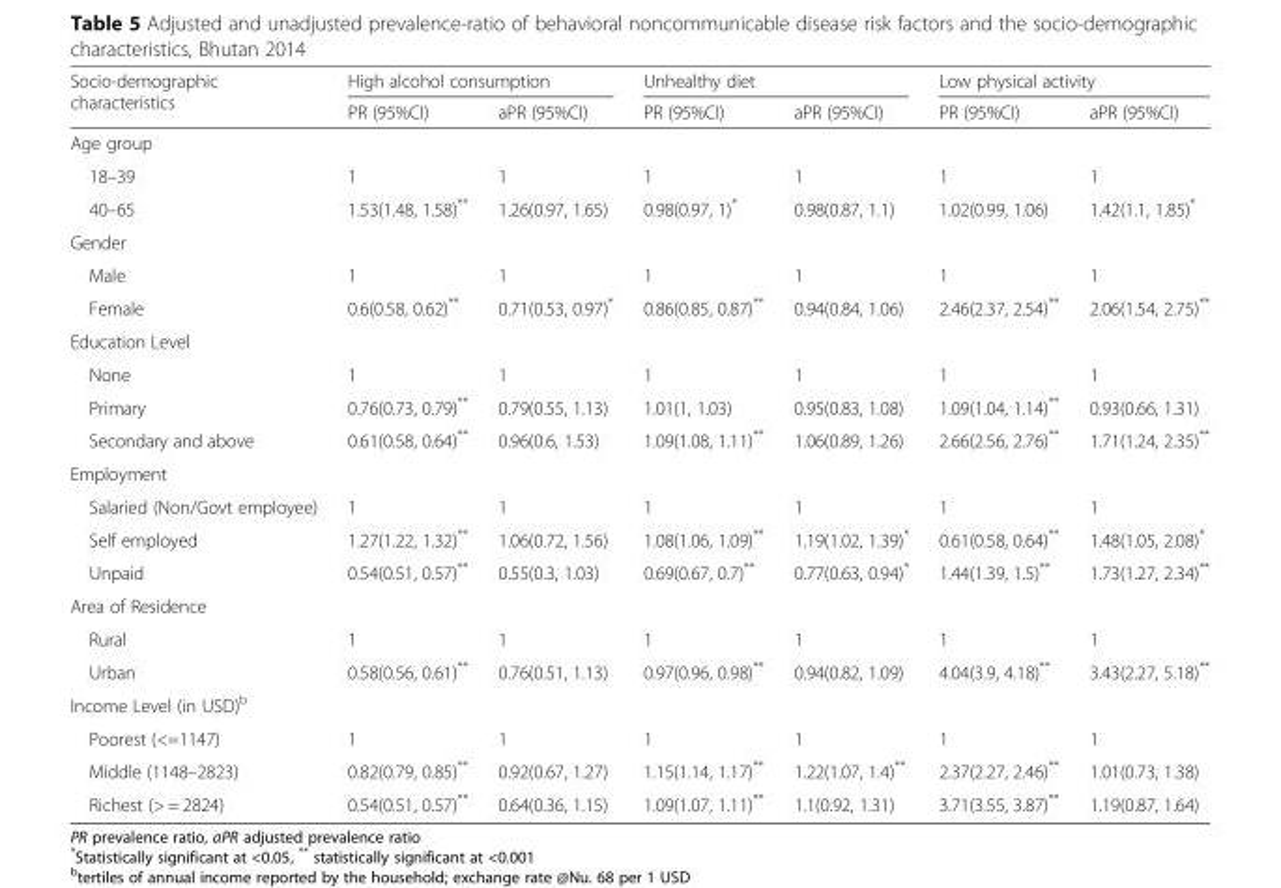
<table><thead><tr><td rowspan="2">Socio-demographic characteristics</td><td colspan="2">High alcohol consumption</td><td colspan="2">Unhealthy diet</td><td colspan="2">Low physical activity</td></tr><tr><td>PR (95%CI)</td><td>aPR (95%CI)</td><td>PR (95%CI)</td><td>aPR (95%CI)</td><td>PR (95%CI)</td><td>aPR (95%CI)</td></tr></thead><tbody><tr><td colspan="7">Age group</td></tr><tr><td>18–39</td><td>1</td><td>1</td><td>1</td><td>1</td><td>1</td><td>1</td></tr><tr><td>40–65</td><td>1.53(1.48, 1.58)**</td><td>1.26(0.97, 1.65)</td><td>0.98(0.97, 1)*</td><td>0.98(0.87, 1.1)</td><td>1.02(0.99, 1.06)</td><td>1.42(1.1, 1.85)*</td></tr><tr><td colspan="7">Gender</td></tr><tr><td>Male</td><td>1</td><td>1</td><td>1</td><td>1</td><td>1</td><td>1</td></tr><tr><td>Female</td><td>0.6(0.58, 0.62)**</td><td>0.71(0.53, 0.97)*</td><td>0.86(0.85, 0.87)**</td><td>0.94(0.84, 1.06)</td><td>2.46(2.37, 2.54)**</td><td>2.06(1.54, 2.75)**</td></tr><tr><td colspan="7">Education Level</td></tr><tr><td>None</td><td>1</td><td>1</td><td>1</td><td>1</td><td>1</td><td>1</td></tr><tr><td>Primary</td><td>0.76(0.73, 0.79)**</td><td>0.79(0.55, 1.13)</td><td>1.01(1, 1.03)</td><td>0.95(0.83, 1.08)</td><td>1.09(1.04, 1.14)**</td><td>0.93(0.66, 1.31)</td></tr><tr><td>Secondary and above</td><td>0.61(0.58, 0.64)**</td><td>0.96(0.6, 1.53)</td><td>1.09(1.08, 1.11)**</td><td>1.06(0.89, 1.26)</td><td>2.66(2.56, 2.76)**</td><td>1.71(1.24, 2.35)**</td></tr><tr><td colspan="7">Employment</td></tr><tr><td>Salaried (Non/Govt employee)</td><td>1</td><td>1</td><td>1</td><td>1</td><td>1</td><td>1</td></tr><tr><td>Self employed</td><td>1.27(1.22, 1.32)**</td><td>1.06(0.72, 1.56)</td><td>1.08(1.06, 1.09)**</td><td>1.19(1.02, 1.39)*</td><td>0.61(0.58, 0.64)**</td><td>1.48(1.05, 2.08)*</td></tr><tr><td>Unpaid</td><td>0.54(0.51, 0.57)**</td><td>0.55(0.3, 1.03)</td><td>0.69(0.67, 0.7)**</td><td>0.77(0.63, 0.94)*</td><td>1.44(1.39, 1.5)**</td><td>1.73(1.27, 2.34)**</td></tr><tr><td colspan="7">Area of Residence</td></tr><tr><td>Rural</td><td>1</td><td>1</td><td>1</td><td>1</td><td>1</td><td>1</td></tr><tr><td>Urban</td><td>0.58(0.56, 0.61)**</td><td>0.76(0.51, 1.13)</td><td>0.97(0.96, 0.98)**</td><td>0.94(0.82, 1.09)</td><td>4.04(3.9, 4.18)**</td><td>3.43(2.27, 5.18)**</td></tr><tr><td colspan="7">Income Level (in USD)<sup>b</sup></td></tr><tr><td>Poorest (&lt;=1147)</td><td>1</td><td>1</td><td>1</td><td>1</td><td>1</td><td>1</td></tr><tr><td>Middle (1148–2823)</td><td>0.82(0.79, 0.85)**</td><td>0.92(0.67, 1.27)</td><td>1.15(1.14, 1.17)**</td><td>1.22(1.07, 1.4)**</td><td>2.37(2.27, 2.46)**</td><td>1.01(0.73, 1.38)</td></tr><tr><td>Richest (&gt; = 2824)</td><td>0.54(0.51, 0.57)**</td><td>0.64(0.36, 1.15)</td><td>1.09(1.07, 1.11)**</td><td>1.1(0.92, 1.31)</td><td>3.71(3.55, 3.87)**</td><td>1.19(0.87, 1.64)</td></tr></tbody></table>